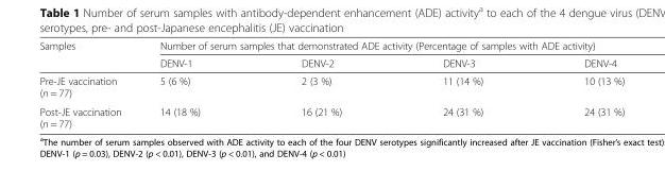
<table><thead><tr><td rowspan="2">Samples</td><td colspan="4">Number of serum samples that demonstrated ADE activity (Percentage of samples with ADE activity)</td></tr><tr><td>DENV-1</td><td>DENV-2</td><td>DENV-3</td><td>DENV-4</td></tr></thead><tbody><tr><td>Pre-JE vaccination (n = 77)</td><td>5 (6 %)</td><td>2 (3 %)</td><td>11 (14 %)</td><td>10 (13 %)</td></tr><tr><td>Post-JE vaccination (n = 77)</td><td>14 (18 %)</td><td>16 (21 %)</td><td>24 (31 %)</td><td>24 (31 %)</td></tr></tbody></table>